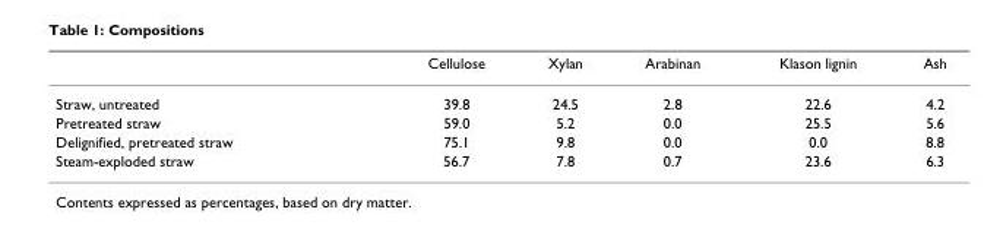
<table><thead><tr><td></td><td>Cellulose</td><td>Xylan</td><td>Arabinan</td><td>Klason lignin</td><td>Ash</td></tr></thead><tbody><tr><td>Straw, untreated</td><td>39.8</td><td>24.5</td><td>2.8</td><td>22.6</td><td>4.2</td></tr><tr><td>Pretreated straw</td><td>59.0</td><td>5.2</td><td>0.0</td><td>25.5</td><td>5.6</td></tr><tr><td>Delignified, pretreated straw</td><td>75.1</td><td>9.8</td><td>0.0</td><td>0.0</td><td>8.8</td></tr><tr><td>Steam-exploded straw</td><td>56.7</td><td>7.8</td><td>0.7</td><td>23.6</td><td>6.3</td></tr></tbody></table>